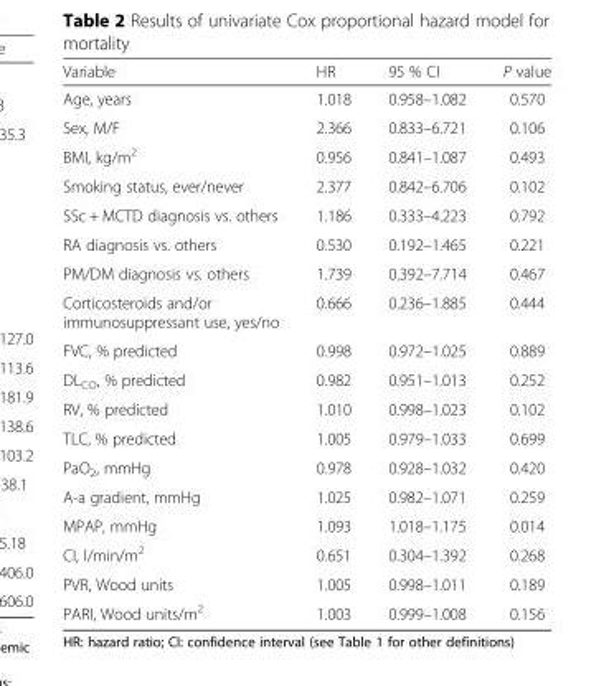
<table><thead><tr><td>Variable</td><td>HR</td><td>95 % CI</td><td>P value</td></tr></thead><tbody><tr><td>Age, years</td><td>1.018</td><td>0.958–1.082</td><td>0.570</td></tr><tr><td>Sex, M/F</td><td>2.366</td><td>0.833–6.721</td><td>0.106</td></tr><tr><td>BMI, kg/m<sup>2</sup></td><td>0.956</td><td>0.841–1.087</td><td>0.493</td></tr><tr><td>Smoking status, ever/never</td><td>2.377</td><td>0.842–6.706</td><td>0.102</td></tr><tr><td>SSc + MCTD diagnosis vs. others</td><td>1.186</td><td>0.333–4.223</td><td>0.792</td></tr><tr><td>RA diagnosis vs. others</td><td>0.530</td><td>0.192–1.465</td><td>0.221</td></tr><tr><td>PM/DM diagnosis vs. others</td><td>1.739</td><td>0.392–7.714</td><td>0.467</td></tr><tr><td>Corticosteroids and/or immunosuppressant use, yes/no</td><td>0.666</td><td>0.236–1.885</td><td>0.444</td></tr><tr><td>FVC, % predicted</td><td>0.998</td><td>0.972–1.025</td><td>0.889</td></tr><tr><td>DL<sub>CO</sub>, % predicted</td><td>0.982</td><td>0.951–1.013</td><td>0.252</td></tr><tr><td>RV, % predicted</td><td>1.010</td><td>0.998–1.023</td><td>0.102</td></tr><tr><td>TLC, % predicted</td><td>1.005</td><td>0.979–1.033</td><td>0.699</td></tr><tr><td>PaO<sub>2</sub>, mmHg</td><td>0.978</td><td>0.928–1.032</td><td>0.420</td></tr><tr><td>A-a gradient, mmHg</td><td>1.025</td><td>0.982–1.071</td><td>0.259</td></tr><tr><td>MPAP, mmHg</td><td>1.093</td><td>1.018–1.175</td><td>0.014</td></tr><tr><td>CI, l/min/m<sup>2</sup></td><td>0.651</td><td>0.304–1.392</td><td>0.268</td></tr><tr><td>PVR, Wood units</td><td>1.005</td><td>0.998–1.011</td><td>0.189</td></tr><tr><td>PARI, Wood units/m<sup>2</sup></td><td>1.003</td><td>0.999–1.008</td><td>0.156</td></tr></tbody></table>